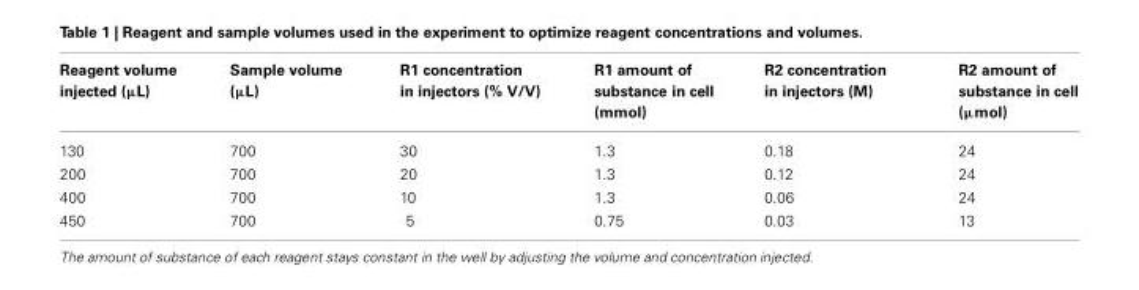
<table><thead><tr><td>Reagent volume injected (µL)</td><td>Sample volume (µL)</td><td>R1 concentration in injectors (% V/V)</td><td>R1 amount of substance in cell (mmol)</td><td>R2 concentration in injectors (M)</td><td>R2 amount of substance in cell (µmol)</td></tr></thead><tbody><tr><td>130</td><td>700</td><td>30</td><td>1.3</td><td>0.18</td><td>24</td></tr><tr><td>200</td><td>700</td><td>20</td><td>1.3</td><td>0.12</td><td>24</td></tr><tr><td>400</td><td>700</td><td>10</td><td>1.3</td><td>0.06</td><td>24</td></tr><tr><td>450</td><td>700</td><td>5</td><td>0.75</td><td>0.03</td><td>13</td></tr></tbody></table>